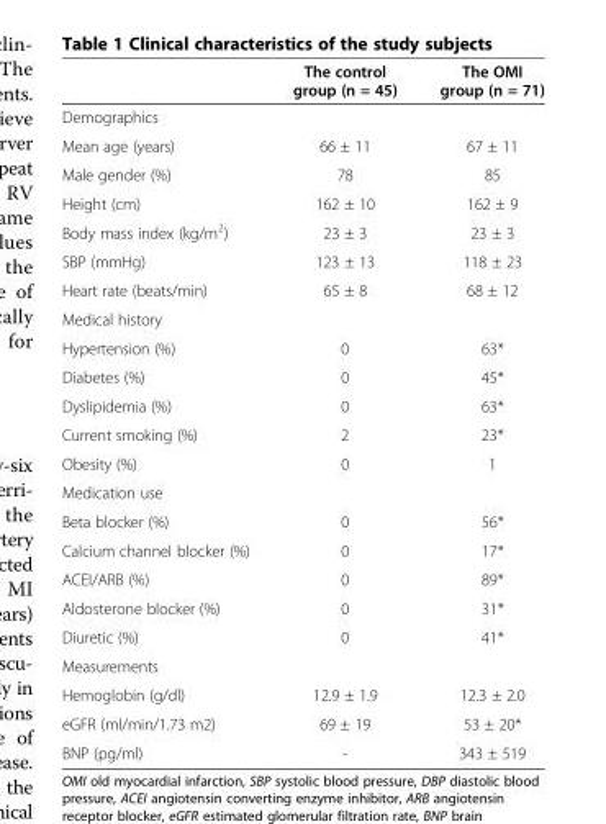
<table><thead><tr><td></td><td>The control group (n = 45)</td><td>The OMI group (n = 71)</td></tr></thead><tbody><tr><td colspan="3">Demographics</td></tr><tr><td>Mean age (years)</td><td>66 ± 11</td><td>67 ± 11</td></tr><tr><td>Male gender (%)</td><td>78</td><td>85</td></tr><tr><td>Height (cm)</td><td>162 ± 10</td><td>162 ± 9</td></tr><tr><td>Body mass index (kg/m<sup>2</sup>)</td><td>23 ± 3</td><td>23 ± 3</td></tr><tr><td>SBP (mmHg)</td><td>123 ± 13</td><td>118 ± 23</td></tr><tr><td>Heart rate (beats/min)</td><td>65 ± 8</td><td>68 ± 12</td></tr><tr><td colspan="3">Medical history</td></tr><tr><td>Hypertension (%)</td><td>0</td><td>63*</td></tr><tr><td>Diabetes (%)</td><td>0</td><td>45*</td></tr><tr><td>Dyslipidemia (%)</td><td>0</td><td>63*</td></tr><tr><td>Current smoking (%)</td><td>2</td><td>23*</td></tr><tr><td>Obesity (%)</td><td>0</td><td>1</td></tr><tr><td colspan="3">Medication use</td></tr><tr><td>Beta blocker (%)</td><td>0</td><td>56*</td></tr><tr><td>Calcium channel blocker (%)</td><td>0</td><td>17*</td></tr><tr><td>ACEI/ARB (%)</td><td>0</td><td>89*</td></tr><tr><td>Aldosterone blocker (%)</td><td>0</td><td>31*</td></tr><tr><td>Diuretic (%)</td><td>0</td><td>41*</td></tr><tr><td colspan="3">Measurements</td></tr><tr><td>Hemoglobin (g/dl)</td><td>12.9 ± 1.9</td><td>12.3 ± 2.0</td></tr><tr><td>eGFR (ml/min/1.73 m2)</td><td>69 ± 19</td><td>53 ± 20*</td></tr><tr><td>BNP (pg/ml)</td><td>-</td><td>343 ± 519</td></tr></tbody></table>